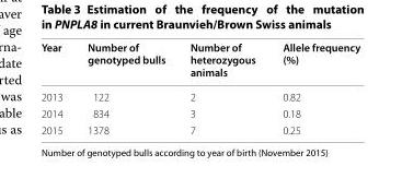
<table><thead><tr><td>Year</td><td>Number of genotyped bulls</td><td>Number of heterozygous animals</td><td>Allele frequency (%)</td></tr></thead><tbody><tr><td>2013</td><td>122</td><td>2</td><td>0.82</td></tr><tr><td>2014</td><td>834</td><td>3</td><td>0.18</td></tr><tr><td>2015</td><td>1378</td><td>7</td><td>0.25</td></tr></tbody></table>